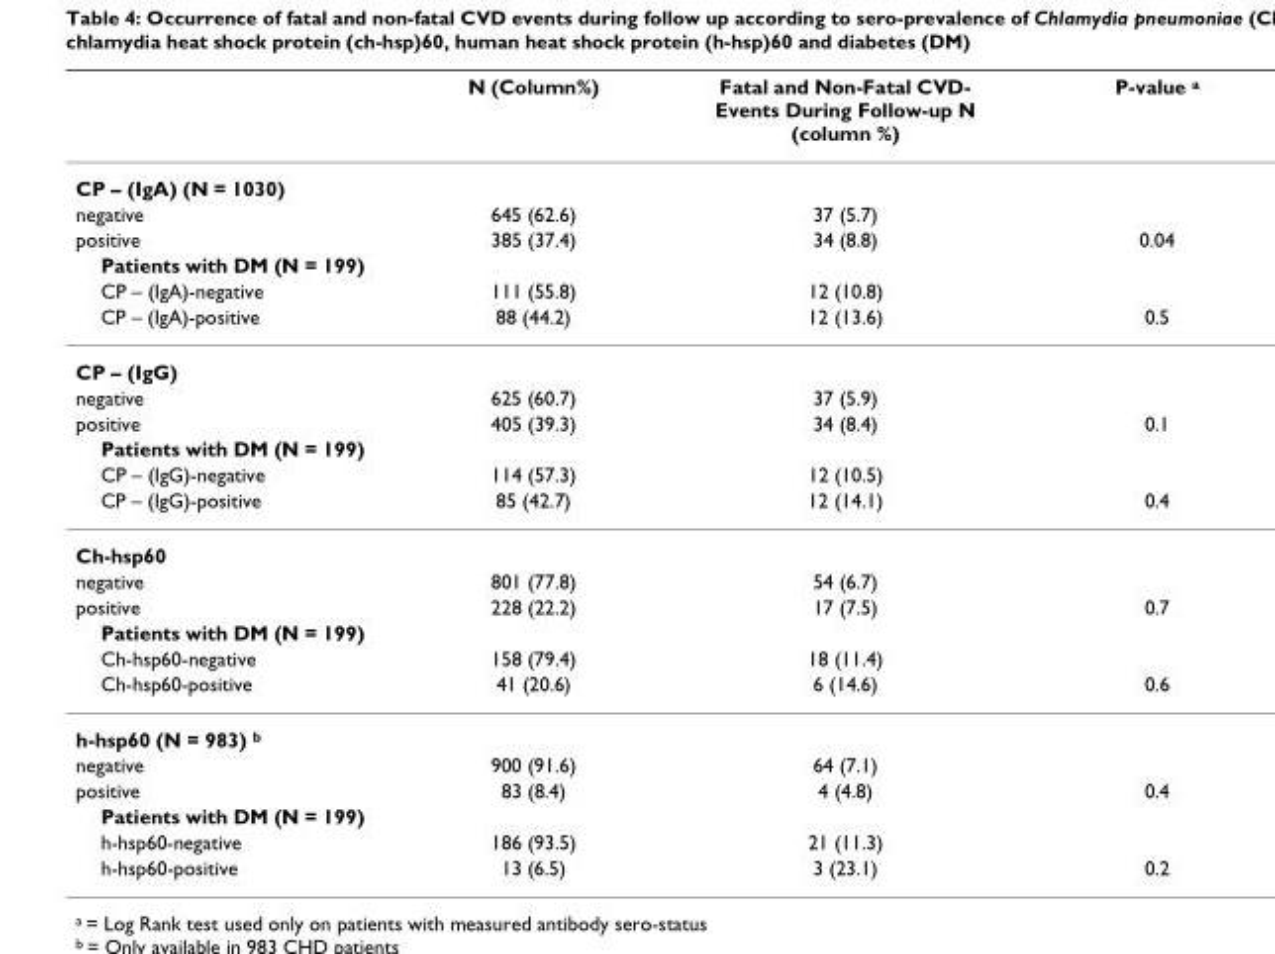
<table><thead><tr><td></td><td>N (Column%)</td><td>Fatal and Non-Fatal CVD- Events During Follow-up N (column %)</td><td>P-value <sup>a</sup></td></tr></thead><tbody><tr><td colspan="4">CP – (IgA) (N = 1030)</td></tr><tr><td>negative</td><td>645 (62.6)</td><td>37 (5.7)</td><td></td></tr><tr><td>positive</td><td>385 (37.4)</td><td>34 (8.8)</td><td>0.04</td></tr><tr><td colspan="4">Patients with DM (N = 199)</td></tr><tr><td>CP – (IgA)-negative</td><td>111 (55.8)</td><td>12 (10.8)</td><td></td></tr><tr><td>CP – (IgA)-positive</td><td>88 (44.2)</td><td>12 (13.6)</td><td>0.5</td></tr><tr><td colspan="4">CP – (IgG)</td></tr><tr><td>negative</td><td>625 (60.7)</td><td>37 (5.9)</td><td></td></tr><tr><td>positive</td><td>405 (39.3)</td><td>34 (8.4)</td><td>0.1</td></tr><tr><td colspan="4">Patients with DM (N = 199)</td></tr><tr><td>CP – (IgG)-negative</td><td>114 (57.3)</td><td>12 (10.5)</td><td></td></tr><tr><td>CP – (IgG)-positive</td><td>85 (42.7)</td><td>12 (14.1)</td><td>0.4</td></tr><tr><td colspan="4">Ch-hsp60</td></tr><tr><td>negative</td><td>801 (77.8)</td><td>54 (6.7)</td><td></td></tr><tr><td>positive</td><td>228 (22.2)</td><td>17 (7.5)</td><td>0.7</td></tr><tr><td colspan="4">Patients with DM (N = 199)</td></tr><tr><td>Ch-hsp60-negative</td><td>158 (79.4)</td><td>18 (11.4)</td><td></td></tr><tr><td>Ch-hsp60-positive</td><td>41 (20.6)</td><td>6 (14.6)</td><td>0.6</td></tr><tr><td colspan="4">h-hsp60 (N = 983) <sup>b</sup></td></tr><tr><td>negative</td><td>900 (91.6)</td><td>64 (7.1)</td><td></td></tr><tr><td>positive</td><td>83 (8.4)</td><td>4 (4.8)</td><td>0.4</td></tr><tr><td colspan="4">Patients with DM (N = 199)</td></tr><tr><td>h-hsp60-negative</td><td>186 (93.5)</td><td>21 (11.3)</td><td></td></tr><tr><td>h-hsp60-positive</td><td>13 (6.5)</td><td>3 (23.1)</td><td>0.2</td></tr></tbody></table>